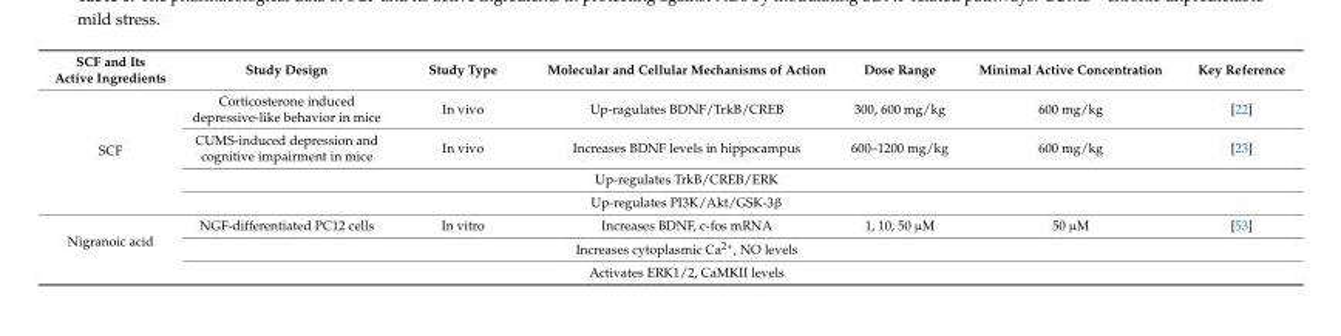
<table><thead><tr><td>SCF and Its Active Ingredients</td><td>Study Design</td><td>Study Type</td><td>Molecular and Cellular Mechanisms of Action</td><td>Dose Range</td><td>Minimal Active Concentration</td><td>Key Reference</td></tr></thead><tbody><tr><td rowspan="4">SCF</td><td>Corticosterone induced depressive-like behavior in mice</td><td>In vivo</td><td>Up-ragulates BDNF/TrkB/CREB</td><td>300, 600 mg/kg</td><td>600 mg/kg</td><td>[22]</td></tr><tr><td>CUMS-induced depression and cognitive impairment in mice</td><td>In vivo</td><td>Increases BDNF levels in hippocampus</td><td>600–1200 mg/kg</td><td>600 mg/kg</td><td>[23]</td></tr><tr><td></td><td></td><td>Up-regulates TrkB/CREB/ERK</td><td></td><td></td><td></td></tr><tr><td></td><td></td><td>Up-regulates PI3K/Akt/GSK-3β</td><td></td><td></td><td></td></tr><tr><td rowspan="3">Nigranoic acid</td><td>NGF-differentiated PC12 cells</td><td>In vitro</td><td>Increases BDNF, c-fos mRNA</td><td>1, 10, 50 µM</td><td>50 µM</td><td>[53]</td></tr><tr><td></td><td></td><td>Increases cytoplasmic Ca<sup>2+</sup>, NO levels</td><td></td><td></td><td></td></tr><tr><td></td><td></td><td>Activates ERK1/2, CaMKII levels</td><td></td><td></td><td></td></tr></tbody></table>